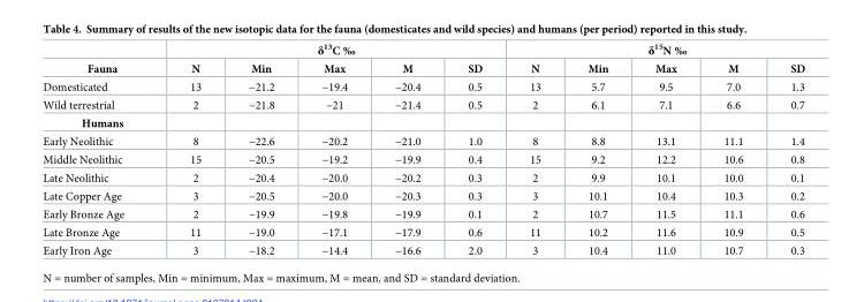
<table><thead><tr><td rowspan="2">Fauna</td><td colspan="5">δ<sup>13</sup>C ‰</td><td colspan="5">δ<sup>15</sup>N ‰</td></tr><tr><td>N</td><td>Min</td><td>Max</td><td>M</td><td>SD</td><td>N</td><td>Min</td><td>Max</td><td>M</td><td>SD</td></tr></thead><tbody><tr><td>Domesticated</td><td>13</td><td>−21.2</td><td>−19.4</td><td>−20.4</td><td>0.5</td><td>13</td><td>5.7</td><td>9.5</td><td>7.0</td><td>1.3</td></tr><tr><td>Wild terrestrial</td><td>2</td><td>−21.8</td><td>−21</td><td>−21.4</td><td>0.5</td><td>2</td><td>6.1</td><td>7.1</td><td>6.6</td><td>0.7</td></tr><tr><td colspan="11">Humans</td></tr><tr><td>Early Neolithic</td><td>8</td><td>−22.6</td><td>−20.2</td><td>−21.0</td><td>1.0</td><td>8</td><td>8.8</td><td>13.1</td><td>11.1</td><td>1.4</td></tr><tr><td>Middle Neolithic</td><td>15</td><td>−20.5</td><td>−19.2</td><td>−19.9</td><td>0.4</td><td>15</td><td>9.2</td><td>12.2</td><td>10.6</td><td>0.8</td></tr><tr><td>Late Neolithic</td><td>2</td><td>−20.4</td><td>−20.0</td><td>−20.2</td><td>0.3</td><td>2</td><td>9.9</td><td>10.1</td><td>10.0</td><td>0.1</td></tr><tr><td>Late Copper Age</td><td>3</td><td>−20.5</td><td>−20.0</td><td>−20.3</td><td>0.3</td><td>3</td><td>10.1</td><td>10.4</td><td>10.3</td><td>0.2</td></tr><tr><td>Early Bronze Age</td><td>2</td><td>−19.9</td><td>−19.8</td><td>−19.9</td><td>0.1</td><td>2</td><td>10.7</td><td>11.5</td><td>11.1</td><td>0.6</td></tr><tr><td>Late Bronze Age</td><td>11</td><td>−19.0</td><td>−17.1</td><td>−17.9</td><td>0.6</td><td>11</td><td>10.2</td><td>11.6</td><td>10.9</td><td>0.5</td></tr><tr><td>Early Iron Age</td><td>3</td><td>−18.2</td><td>−14.4</td><td>−16.6</td><td>2.0</td><td>3</td><td>10.4</td><td>11.0</td><td>10.7</td><td>0.3</td></tr></tbody></table>